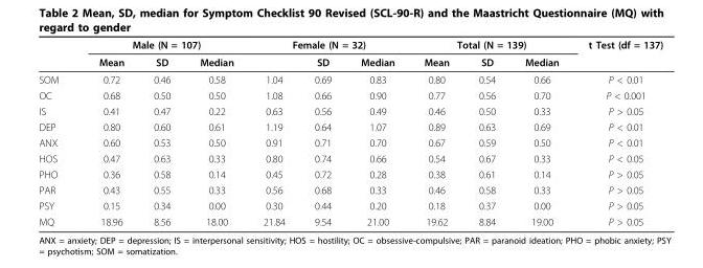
<table><thead><tr><td rowspan="2"></td><td colspan="3">Male (N = 107)</td><td colspan="3">Female (N = 32)</td><td colspan="3">Total (N = 139)</td><td rowspan="2">t Test (df = 137)</td></tr><tr><td>Mean</td><td>SD</td><td>Median</td><td></td><td>SD</td><td>Median</td><td>Mean</td><td>SD</td><td>Median</td></tr></thead><tbody><tr><td>SOM</td><td>0.72</td><td>0.46</td><td>0.58</td><td>1.04</td><td>0.69</td><td>0.83</td><td>0.80</td><td>0.54</td><td>0.66</td><td>P &lt; 0.01</td></tr><tr><td>OC</td><td>0.68</td><td>0.50</td><td>0.50</td><td>1.08</td><td>0.66</td><td>0.90</td><td>0.77</td><td>0.56</td><td>0.70</td><td>P &lt; 0.001</td></tr><tr><td>IS</td><td>0.41</td><td>0.47</td><td>0.22</td><td>0.63</td><td>0.56</td><td>0.49</td><td>0.46</td><td>0.50</td><td>0.33</td><td>P &gt; 0.05</td></tr><tr><td>DEP</td><td>0.80</td><td>0.60</td><td>0.61</td><td>1.19</td><td>0.64</td><td>1.07</td><td>0.89</td><td>0.63</td><td>0.69</td><td>P &lt; 0.01</td></tr><tr><td>ANX</td><td>0.60</td><td>0.53</td><td>0.50</td><td>0.91</td><td>0.71</td><td>0.70</td><td>0.67</td><td>0.59</td><td>0.50</td><td>P &lt; 0.01</td></tr><tr><td>HOS</td><td>0.47</td><td>0.63</td><td>0.33</td><td>0.80</td><td>0.74</td><td>0.66</td><td>0.54</td><td>0.67</td><td>0.33</td><td>P &lt; 0.05</td></tr><tr><td>PHO</td><td>0.36</td><td>0.58</td><td>0.14</td><td>0.45</td><td>0.72</td><td>0.28</td><td>0.38</td><td>0.61</td><td>0.14</td><td>P &gt; 0.05</td></tr><tr><td>PAR</td><td>0.43</td><td>0.55</td><td>0.33</td><td>0.56</td><td>0.68</td><td>0.33</td><td>0.46</td><td>0.58</td><td>0.33</td><td>P &gt; 0.05</td></tr><tr><td>PSY</td><td>0.15</td><td>0.34</td><td>0.00</td><td>0.30</td><td>0.44</td><td>0.20</td><td>0.18</td><td>0.37</td><td>0.00</td><td>P &gt; 0.05</td></tr><tr><td>MQ</td><td>18.96</td><td>8.56</td><td>18.00</td><td>21.84</td><td>9.54</td><td>21.00</td><td>19.62</td><td>8.84</td><td>19.00</td><td>P &gt; 0.05</td></tr></tbody></table>